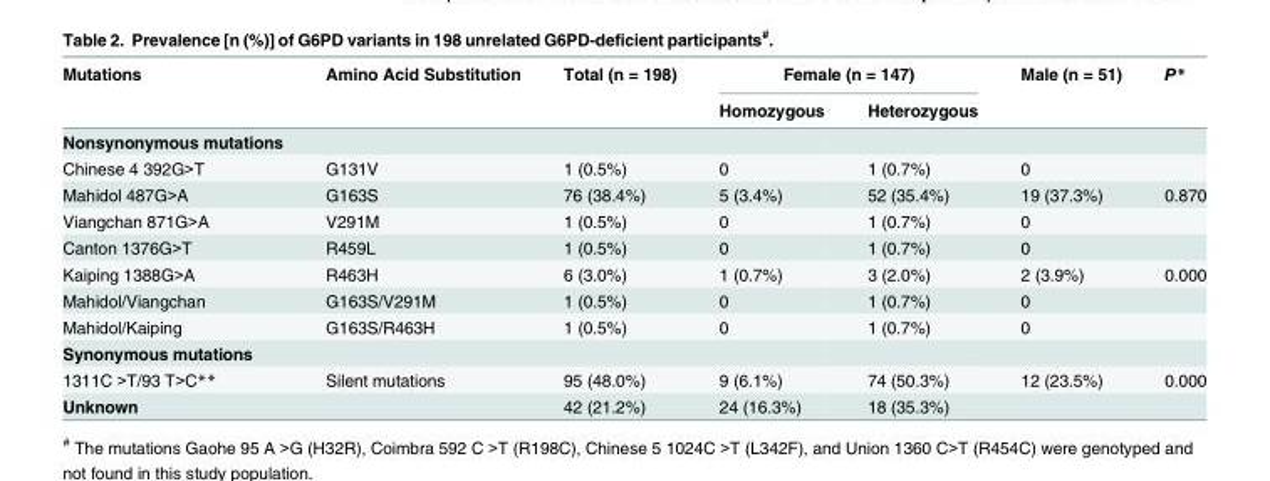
<table><thead><tr><td rowspan="2">Mutations</td><td rowspan="2">Amino Acid Substitution</td><td rowspan="2">Total (n = 198)</td><td colspan="2">Female (n = 147)</td><td rowspan="2">Male (n = 51)</td><td rowspan="2">P*</td></tr><tr><td>Homozygous</td><td>Heterozygous</td></tr></thead><tbody><tr><td colspan="7">Nonsynonymous mutations</td></tr><tr><td>Chinese 4 392G&gt;T</td><td>G131V</td><td>1 (0.5%)</td><td>0</td><td>1 (0.7%)</td><td>0</td><td></td></tr><tr><td>Mahidol 487G&gt;A</td><td>G163S</td><td>76 (38.4%)</td><td>5 (3.4%)</td><td>52 (35.4%)</td><td>19 (37.3%)</td><td>0.870</td></tr><tr><td>Viangchan 871G&gt;A</td><td>V291M</td><td>1 (0.5%)</td><td>0</td><td>1 (0.7%)</td><td>0</td><td></td></tr><tr><td>Canton 1376G&gt;T</td><td>R459L</td><td>1 (0.5%)</td><td>0</td><td>1 (0.7%)</td><td>0</td><td></td></tr><tr><td>Kaiping 1388G&gt;A</td><td>R463H</td><td>6 (3.0%)</td><td>1 (0.7%)</td><td>3 (2.0%)</td><td>2 (3.9%)</td><td>0.000</td></tr><tr><td>Mahidol/Viangchan</td><td>G163S/V291M</td><td>1 (0.5%)</td><td>0</td><td>1 (0.7%)</td><td>0</td><td></td></tr><tr><td>Mahidol/Kaiping</td><td>G163S/R463H</td><td>1 (0.5%)</td><td>0</td><td>1 (0.7%)</td><td>0</td><td></td></tr><tr><td colspan="7">Synonymous mutations</td></tr><tr><td>1311C &gt;T/93 T&gt;C**</td><td>Silent mutations</td><td>95 (48.0%)</td><td>9 (6.1%)</td><td>74 (50.3%)</td><td>12 (23.5%)</td><td>0.000</td></tr><tr><td>Unknown</td><td></td><td>42 (21.2%)</td><td>24 (16.3%)</td><td>18 (35.3%)</td><td></td><td></td></tr></tbody></table>